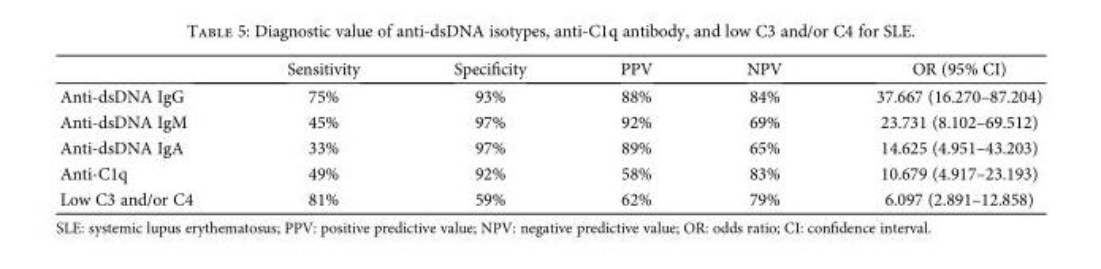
<table><thead><tr><td></td><td>Sensitivity</td><td>Specificity</td><td>PPV</td><td>NPV</td><td>OR (95% CI)</td></tr></thead><tbody><tr><td>Anti-dsDNA IgG</td><td>75%</td><td>93%</td><td>88%</td><td>84%</td><td>37.667 (16.270–87.204)</td></tr><tr><td>Anti-dsDNA IgM</td><td>45%</td><td>97%</td><td>92%</td><td>69%</td><td>23.731 (8.102–69.512)</td></tr><tr><td>Anti-dsDNA IgA</td><td>33%</td><td>97%</td><td>89%</td><td>65%</td><td>14.625 (4.951–43.203)</td></tr><tr><td>Anti-C1q</td><td>49%</td><td>92%</td><td>58%</td><td>83%</td><td>10.679 (4.917–23.193)</td></tr><tr><td>Low C3 and/or C4</td><td>81%</td><td>59%</td><td>62%</td><td>79%</td><td>6.097 (2.891–12.858)</td></tr></tbody></table>